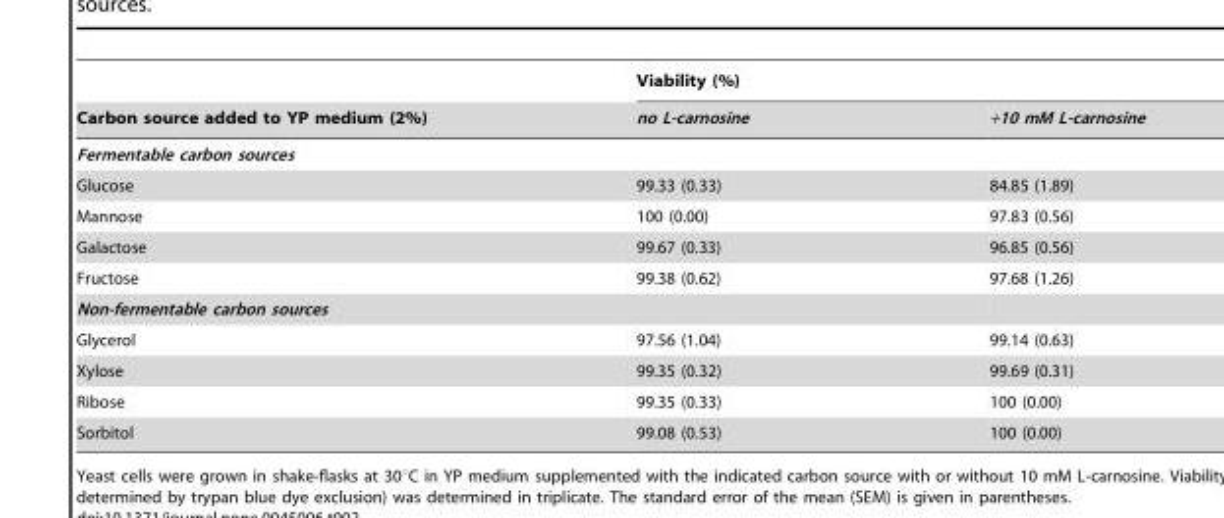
<table><thead><tr><td rowspan="2">Carbon source added to YP medium (2%)</td><td colspan="2">Viability (%)</td></tr><tr><td>no L-carnosine</td><td>+10 mM L-carnosine</td></tr></thead><tbody><tr><td colspan="3">Fermentable carbon sources</td></tr><tr><td>Glucose</td><td>99.33 (0.33)</td><td>84.85 (1.89)</td></tr><tr><td>Mannose</td><td>100 (0.00)</td><td>97.83 (0.56)</td></tr><tr><td>Galactose</td><td>99.67 (0.33)</td><td>96.85 (0.56)</td></tr><tr><td>Fructose</td><td>99.38 (0.62)</td><td>97.68 (1.26)</td></tr><tr><td colspan="3">Non-fermentable carbon sources</td></tr><tr><td>Glycerol</td><td>97.56 (1.04)</td><td>99.14 (0.63)</td></tr><tr><td>Xylose</td><td>99.35 (0.32)</td><td>99.69 (0.31)</td></tr><tr><td>Ribose</td><td>99.35 (0.33)</td><td>100 (0.00)</td></tr><tr><td>Sorbitol</td><td>99.08 (0.53)</td><td>100 (0.00)</td></tr></tbody></table>